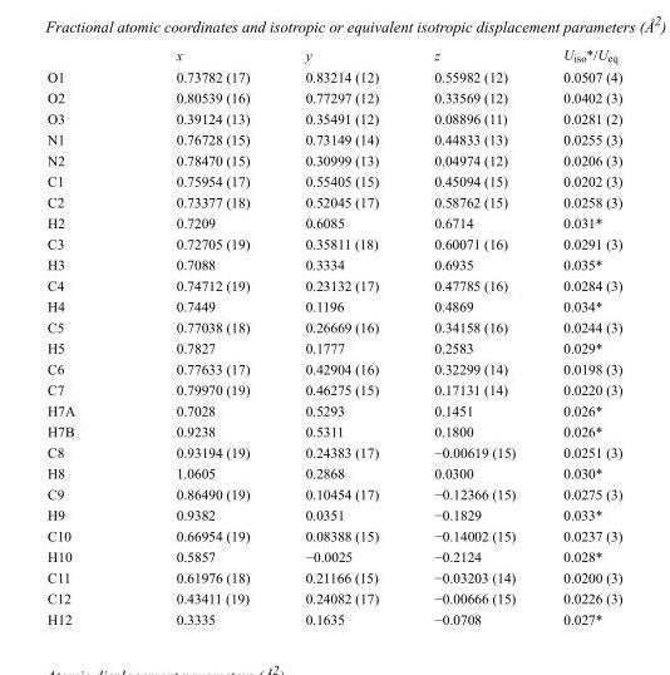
<table><thead><tr><td></td><td>x</td><td>y</td><td>z</td><td>U<sub>iso</sub>*/U<sub>eq</sub></td></tr></thead><tbody><tr><td>O1</td><td>0.73782 (17)</td><td>0.83214 (12)</td><td>0.55982 (12)</td><td>0.0507 (4)</td></tr><tr><td>O2</td><td>0.80539 (16)</td><td>0.77297 (12)</td><td>0.33569 (12)</td><td>0.0402 (3)</td></tr><tr><td>O3</td><td>0.39124 (13)</td><td>0.35491 (12)</td><td>0.08896 (11)</td><td>0.0281 (2)</td></tr><tr><td>N1</td><td>0.76728 (15)</td><td>0.73149 (14)</td><td>0.44833 (13)</td><td>0.0255 (3)</td></tr><tr><td>N2</td><td>0.78470 (15)</td><td>0.30999 (13)</td><td>0.04974 (12)</td><td>0.0206 (3)</td></tr><tr><td>C1</td><td>0.75954 (17)</td><td>0.55405 (15)</td><td>0.45094 (15)</td><td>0.0202 (3)</td></tr><tr><td>C2</td><td>0.73377 (18)</td><td>0.52045 (17)</td><td>0.58762 (15)</td><td>0.0258 (3)</td></tr><tr><td>H2</td><td>0.7209</td><td>0.6085</td><td>0.6714</td><td>0.031*</td></tr><tr><td>C3</td><td>0.72705 (19)</td><td>0.35811 (18)</td><td>0.60071 (16)</td><td>0.0291 (3)</td></tr><tr><td>H3</td><td>0.7088</td><td>0.3334</td><td>0.6935</td><td>0.035*</td></tr><tr><td>C4</td><td>0.74712 (19)</td><td>0.23132 (17)</td><td>0.47785 (16)</td><td>0.0284 (3)</td></tr><tr><td>H4</td><td>0.7449</td><td>0.1196</td><td>0.4869</td><td>0.034*</td></tr><tr><td>C5</td><td>0.77038 (18)</td><td>0.26669 (16)</td><td>0.34158 (16)</td><td>0.0244 (3)</td></tr><tr><td>H5</td><td>0.7827</td><td>0.1777</td><td>0.2583</td><td>0.029*</td></tr><tr><td>C6</td><td>0.77633 (17)</td><td>0.42904 (16)</td><td>0.32299 (14)</td><td>0.0198 (3)</td></tr><tr><td>C7</td><td>0.79970 (19)</td><td>0.46275 (15)</td><td>0.17131 (14)</td><td>0.0220 (3)</td></tr><tr><td>H7A</td><td>0.7028</td><td>0.5293</td><td>0.1451</td><td>0.026*</td></tr><tr><td>H7B</td><td>0.9238</td><td>0.5311</td><td>0.1800</td><td>0.026*</td></tr><tr><td>C8</td><td>0.93194 (19)</td><td>0.24383 (17)</td><td>−0.00619 (15)</td><td>0.0251 (3)</td></tr><tr><td>H8</td><td>1.0605</td><td>0.2868</td><td>0.0300</td><td>0.030*</td></tr><tr><td>C9</td><td>0.86490 (19)</td><td>0.10454 (17)</td><td>−0.12366 (15)</td><td>0.0275 (3)</td></tr><tr><td>H9</td><td>0.9382</td><td>0.0351</td><td>−0.1829</td><td>0.033*</td></tr><tr><td>C10</td><td>0.66954 (19)</td><td>0.08388 (15)</td><td>−0.14002 (15)</td><td>0.0237 (3)</td></tr><tr><td>H10</td><td>0.5857</td><td>−0.0025</td><td>−0.2124</td><td>0.028*</td></tr><tr><td>C11</td><td>0.61976 (18)</td><td>0.21166 (15)</td><td>−0.03203 (14)</td><td>0.0200 (3)</td></tr><tr><td>C12</td><td>0.43411 (19)</td><td>0.24082 (17)</td><td>−0.00666 (15)</td><td>0.0226 (3)</td></tr><tr><td>H12</td><td>0.3335</td><td>0.1635</td><td>−0.0708</td><td>0.027*</td></tr></tbody></table>